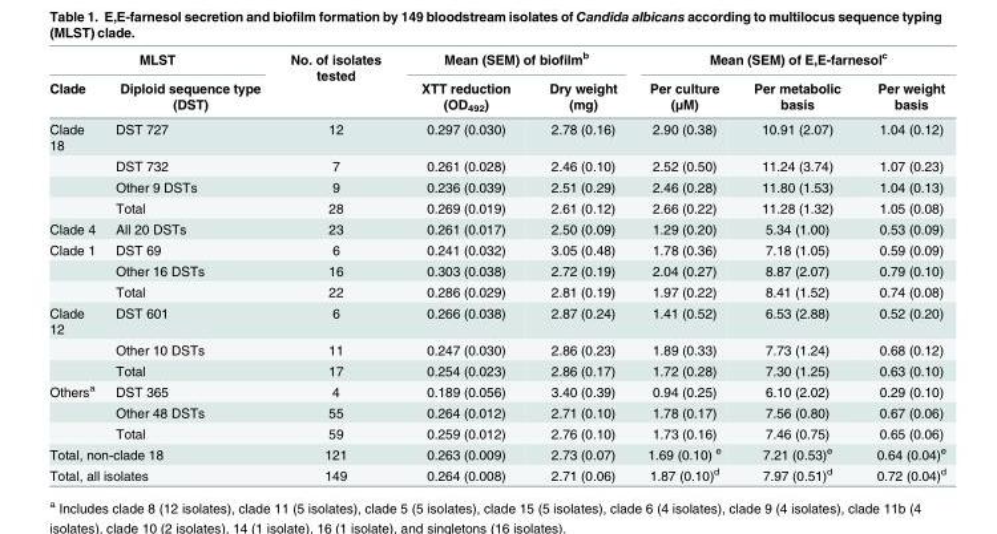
<table><thead><tr><td colspan="2">MLST</td><td rowspan="2">No. of isolates tested</td><td colspan="2">Mean (SEM) of biofilm<sup>b</sup></td><td colspan="3">Mean (SEM) of E,E-farnesol<sup>c</sup></td></tr><tr><td>Clade</td><td>Diploid sequence type (DST)</td><td>XTT reduction (OD<sub>492</sub>)</td><td>Dry weight (mg)</td><td>Per culture (μM)</td><td>Per metabolic basis</td><td>Per weight basis</td></tr></thead><tbody><tr><td rowspan="4">Clade 18</td><td>DST 727</td><td>12</td><td>0.297 (0.030)</td><td>2.78 (0.16)</td><td>2.90 (0.38)</td><td>10.91 (2.07)</td><td>1.04 (0.12)</td></tr><tr><td>DST 732</td><td>7</td><td>0.261 (0.028)</td><td>2.46 (0.10)</td><td>2.52 (0.50)</td><td>11.24 (3.74)</td><td>1.07 (0.23)</td></tr><tr><td>Other 9 DSTs</td><td>9</td><td>0.236 (0.039)</td><td>2.51 (0.29)</td><td>2.46 (0.28)</td><td>11.80 (1.53)</td><td>1.04 (0.13)</td></tr><tr><td>Total</td><td>28</td><td>0.269 (0.019)</td><td>2.61 (0.12)</td><td>2.66 (0.22)</td><td>11.28 (1.32)</td><td>1.05 (0.08)</td></tr><tr><td>Clade 4</td><td>All 20 DSTs</td><td>23</td><td>0.261 (0.017)</td><td>2.50 (0.09)</td><td>1.29 (0.20)</td><td>5.34 (1.00)</td><td>0.53 (0.09)</td></tr><tr><td rowspan="3">Clade 1</td><td>DST 69</td><td>6</td><td>0.241 (0.032)</td><td>3.05 (0.48)</td><td>1.78 (0.36)</td><td>7.18 (1.05)</td><td>0.59 (0.09)</td></tr><tr><td>Other 16 DSTs</td><td>16</td><td>0.303 (0.038)</td><td>2.72 (0.19)</td><td>2.04 (0.27)</td><td>8.87 (2.07)</td><td>0.79 (0.10)</td></tr><tr><td>Total</td><td>22</td><td>0.286 (0.029)</td><td>2.81 (0.19)</td><td>1.97 (0.22)</td><td>8.41 (1.52)</td><td>0.74 (0.08)</td></tr><tr><td rowspan="3">Clade 12</td><td>DST 601</td><td>6</td><td>0.266 (0.038)</td><td>2.87 (0.24)</td><td>1.41 (0.52)</td><td>6.53 (2.88)</td><td>0.52 (0.20)</td></tr><tr><td>Other 10 DSTs</td><td>11</td><td>0.247 (0.030)</td><td>2.86 (0.23)</td><td>1.89 (0.33)</td><td>7.73 (1.24)</td><td>0.68 (0.12)</td></tr><tr><td>Total</td><td>17</td><td>0.254 (0.023)</td><td>2.86 (0.17)</td><td>1.72 (0.28)</td><td>7.30 (1.25)</td><td>0.63 (0.10)</td></tr><tr><td rowspan="3">Others<sup>a</sup></td><td>DST 365</td><td>4</td><td>0.189 (0.056)</td><td>3.40 (0.39)</td><td>0.94 (0.25)</td><td>6.10 (2.02)</td><td>0.29 (0.10)</td></tr><tr><td>Other 48 DSTs</td><td>55</td><td>0.264 (0.012)</td><td>2.71 (0.10)</td><td>1.78 (0.17)</td><td>7.56 (0.80)</td><td>0.67 (0.06)</td></tr><tr><td>Total</td><td>59</td><td>0.259 (0.012)</td><td>2.76 (0.10)</td><td>1.73 (0.16)</td><td>7.46 (0.75)</td><td>0.65 (0.06)</td></tr><tr><td colspan="2">Total, non-clade 18</td><td>121</td><td>0.263 (0.009)</td><td>2.73 (0.07)</td><td>1.69 (0.10) <sup>e</sup></td><td>7.21 (0.53)<sup>e</sup></td><td>0.64 (0.04)<sup>e</sup></td></tr><tr><td colspan="2">Total, all isolates</td><td>149</td><td>0.264 (0.008)</td><td>2.71 (0.06)</td><td>1.87 (0.10)<sup>d</sup></td><td>7.97 (0.51)<sup>d</sup></td><td>0.72 (0.04)<sup>d</sup></td></tr></tbody></table>